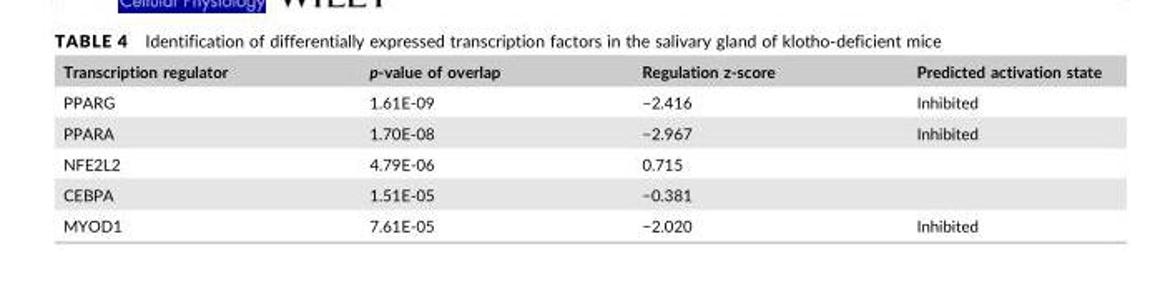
<table><thead><tr><td>Transcription regulator</td><td>p-value of overlap</td><td>Regulation z-score</td><td>Predicted activation state</td></tr></thead><tbody><tr><td>PPARG</td><td>1.61E-09</td><td>−2.416</td><td>Inhibited</td></tr><tr><td>PPARA</td><td>1.70E-08</td><td>−2.967</td><td>Inhibited</td></tr><tr><td>NFE2L2</td><td>4.79E-06</td><td>0.715</td><td></td></tr><tr><td>CEBPA</td><td>1.51E-05</td><td>−0.381</td><td></td></tr><tr><td>MYOD1</td><td>7.61E-05</td><td>−2.020</td><td>Inhibited</td></tr></tbody></table>